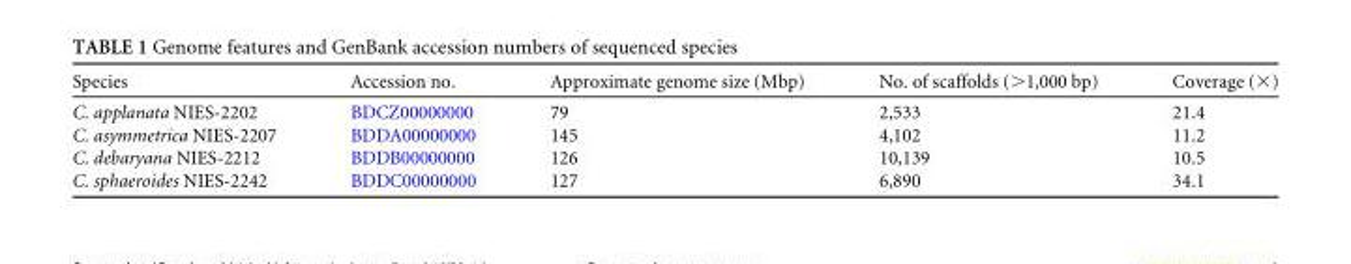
<table><thead><tr><td>Species</td><td>Accession no.</td><td>Approximate genome size (Mbp)</td><td>No. of scaffolds (&gt;1,000 bp)</td><td>Coverage (×)</td></tr></thead><tbody><tr><td>C. applanata NIES-2202</td><td>BDCZ00000000</td><td>79</td><td>2,533</td><td>21.4</td></tr><tr><td>C. asymmetrica NIES-2207</td><td>BDDA00000000</td><td>145</td><td>4,102</td><td>11.2</td></tr><tr><td>C. debaryana NIES-2212</td><td>BDDB00000000</td><td>126</td><td>10,139</td><td>10.5</td></tr><tr><td>C. sphaeroides NIES-2242</td><td>BDDC00000000</td><td>127</td><td>6,890</td><td>34.1</td></tr></tbody></table>